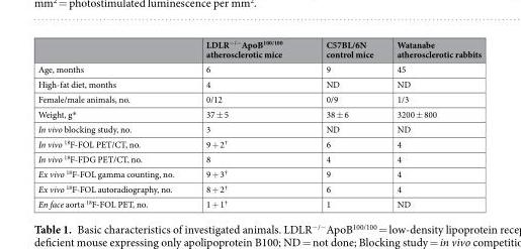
<table><thead><tr><td></td><td>LDLR<sup>−/−</sup>ApoB<sup>100/100</sup> atherosclerotic mice</td><td>C57BL/6N control mice</td><td>Watanabe atherosclerotic rabbits</td></tr></thead><tbody><tr><td>Age, months</td><td>6</td><td>9</td><td>45</td></tr><tr><td>High-fat diet, months</td><td>4</td><td>ND</td><td>ND</td></tr><tr><td>Female/male animals, no.</td><td>0/12</td><td>0/9</td><td>1/3</td></tr><tr><td>Weight, g*</td><td>37 ± 5</td><td>38 ± 6</td><td>3200 ± 800</td></tr><tr><td>In vivo blocking study, no.</td><td>3</td><td>ND</td><td>ND</td></tr><tr><td>In vivo <sup>18</sup>F-FOL PET/CT, no.</td><td>9 + 2<sup>†</sup></td><td>6</td><td>4</td></tr><tr><td>In vivo <sup>18</sup>F-FDG PET/CT, no.</td><td>8</td><td>4</td><td>4</td></tr><tr><td>Ex vivo <sup>18</sup>F-FOL gamma counting, no.</td><td>9 + 3<sup>†</sup></td><td>9</td><td>4</td></tr><tr><td>Ex vivo <sup>18</sup>F-FOL autoradiography, no.</td><td>8 + 2<sup>†</sup></td><td>6</td><td>4</td></tr><tr><td>En face aorta <sup>18</sup>F-FOL PET, no.</td><td>1 + 1<sup>†</sup></td><td>1</td><td>ND</td></tr></tbody></table>